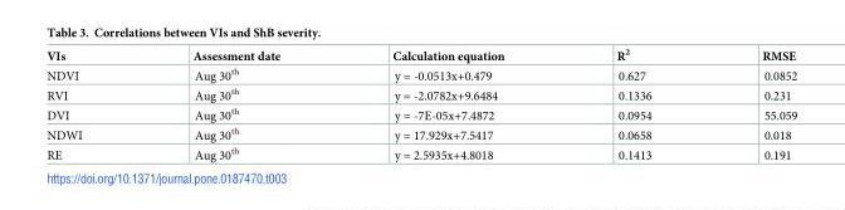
<table><thead><tr><td>VIs</td><td>Assessment date</td><td>Calculation equation</td><td>R<sup>2</sup></td><td>RMSE</td></tr></thead><tbody><tr><td>NDVI</td><td>Aug 30<sup>th</sup></td><td>y = -0.0513x+0.479</td><td>0.627</td><td>0.0852</td></tr><tr><td>RVI</td><td>Aug 30<sup>th</sup></td><td>y = -2.0782x+9.6484</td><td>0.1336</td><td>0.231</td></tr><tr><td>DVI</td><td>Aug 30<sup>th</sup></td><td>y = -7E-05x+7.4872</td><td>0.0954</td><td>55.059</td></tr><tr><td>NDWI</td><td>Aug 30<sup>th</sup></td><td>y = 17.929x+7.5417</td><td>0.0658</td><td>0.018</td></tr><tr><td>RE</td><td>Aug 30<sup>th</sup></td><td>y = 2.5935x+4.8018</td><td>0.1413</td><td>0.191</td></tr></tbody></table>